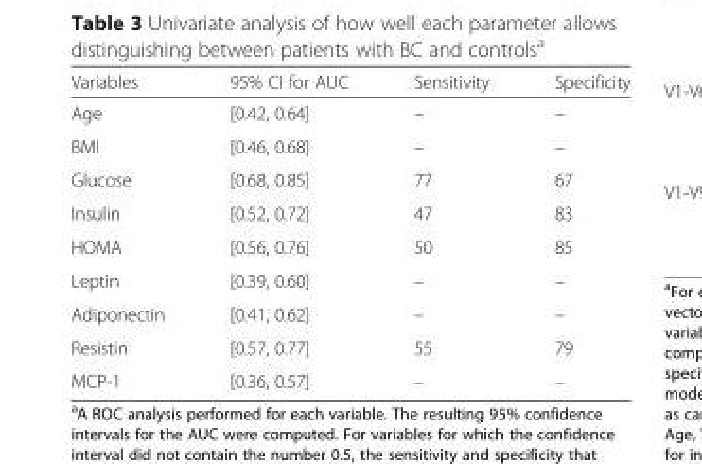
<table><thead><tr><td>Variables</td><td>95% CI for AUC</td><td>Sensitivity</td><td>Specificity</td></tr></thead><tbody><tr><td>Age</td><td>[0.42, 0.64]</td><td>–</td><td>–</td></tr><tr><td>BMI</td><td>[0.46, 0.68]</td><td>–</td><td>–</td></tr><tr><td>Glucose</td><td>[0.68, 0.85]</td><td>77</td><td>67</td></tr><tr><td>Insulin</td><td>[0.52, 0.72]</td><td>47</td><td>83</td></tr><tr><td>HOMA</td><td>[0.56, 0.76]</td><td>50</td><td>85</td></tr><tr><td>Leptin</td><td>[0.39, 0.60]</td><td>–</td><td>–</td></tr><tr><td>Adiponectin</td><td>[0.41, 0.62]</td><td>–</td><td>–</td></tr><tr><td>Resistin</td><td>[0.57, 0.77]</td><td>55</td><td>79</td></tr><tr><td>MCP-1</td><td>[0.36, 0.57]</td><td>–</td><td>–</td></tr></tbody></table>